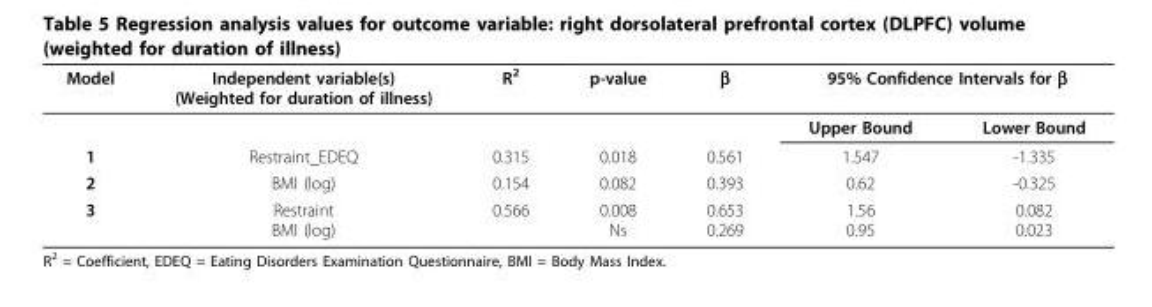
<table><tbody><tr><td rowspan="2">Model</td><td>Independent variable(s) (Weighted for duration of illness)</td><td>R<sup>2</sup></td><td>p-value</td><td>β</td><td colspan="2">95% Confidence Intervals for β</td></tr><tr><td></td><td></td><td></td><td></td><td>Upper Bound</td><td>Lower Bound</td></tr><tr><td>1</td><td>Restraint_EDEQ</td><td>0.315</td><td>0.018</td><td>0.561</td><td>1.547</td><td>-1.335</td></tr><tr><td>2</td><td>BMI (log)</td><td>0.154</td><td>0.082</td><td>0.393</td><td>0.62</td><td>-0.325</td></tr><tr><td>3</td><td>Restraint BMI (log)</td><td>0.566</td><td>0.008 Ns</td><td>0.653 0.269</td><td>1.56 0.95</td><td>0.082 0.023</td></tr></tbody></table>